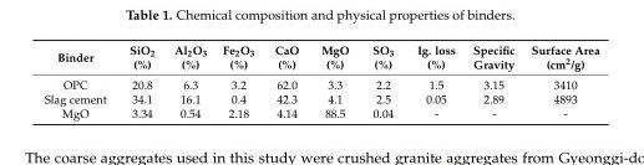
<table><thead><tr><td>Binder</td><td>SiO<sub>2</sub> (%)</td><td>Al<sub>2</sub>O<sub>3</sub> (%)</td><td>Fe<sub>2</sub>O<sub>3</sub> (%)</td><td>CaO (%)</td><td>MgO (%)</td><td>SO<sub>3</sub> (%)</td><td>Ig. loss (%)</td><td>Specific Gravity</td><td>Surface Area (cm<sup>2</sup>/g)</td></tr></thead><tbody><tr><td>OPC</td><td>20.8</td><td>6.3</td><td>3.2</td><td>62.0</td><td>3.3</td><td>2.2</td><td>1.5</td><td>3.15</td><td>3410</td></tr><tr><td>Slag cement</td><td>34.1</td><td>16.1</td><td>0.4</td><td>42.3</td><td>4.1</td><td>2.5</td><td>0.05</td><td>2.89</td><td>4893</td></tr><tr><td>MgO</td><td>3.34</td><td>0.54</td><td>2.18</td><td>4.14</td><td>88.5</td><td>0.04</td><td>-</td><td>-</td><td>-</td></tr></tbody></table>